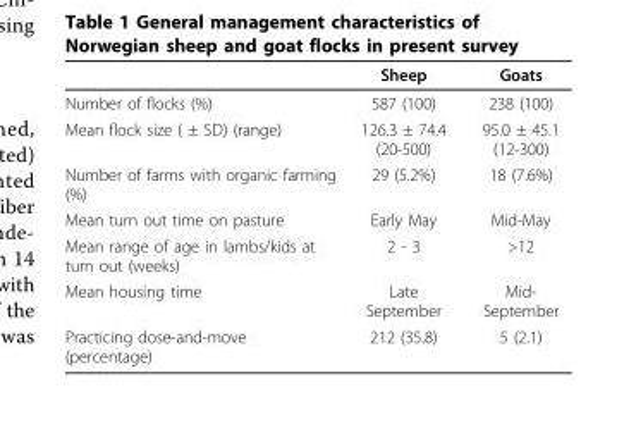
<table><thead><tr><td></td><td>Sheep</td><td>Goats</td></tr></thead><tbody><tr><td>Number of flocks (%)</td><td>587 (100)</td><td>238 (100)</td></tr><tr><td>Mean flock size ( ± SD) (range)</td><td>126.3 ± 74.4 (20-500)</td><td>95.0 ± 45.1 (12-300)</td></tr><tr><td>Number of farms with organic farming (%)</td><td>29 (5.2%)</td><td>18 (7.6%)</td></tr><tr><td>Mean turn out time on pasture</td><td>Early May</td><td>Mid-May</td></tr><tr><td>Mean range of age in lambs/kids at turn out (weeks)</td><td>2 - 3</td><td>&gt;12</td></tr><tr><td>Mean housing time</td><td>Late September</td><td>Mid- September</td></tr><tr><td>Practicing dose-and-move (percentage)</td><td>212 (35.8)</td><td>5 (2.1)</td></tr></tbody></table>